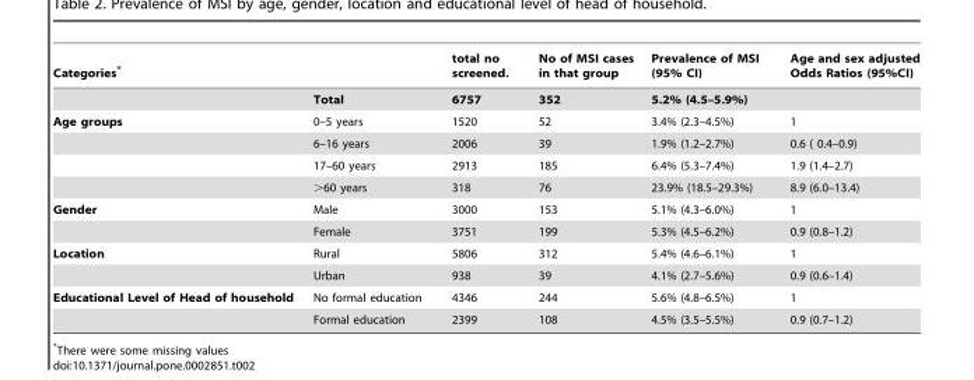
<table><thead><tr><td colspan="2">Categories*</td><td rowspan="2">total no screened. 6757</td><td rowspan="2">No of MSI cases in that group 352</td><td rowspan="2">Prevalence of MSI (95% CI) 5.2% (4.5–5.9%)</td><td rowspan="2">Age and sex adjusted Odds Ratios (95%CI)</td></tr><tr><td></td><td>Total</td></tr></thead><tbody><tr><td rowspan="4">Age groups</td><td>0–5 years</td><td>1520</td><td>52</td><td>3.4% (2.3–4.5%)</td><td>1</td></tr><tr><td>6–16 years</td><td>2006</td><td>39</td><td>1.9% (1.2–2.7%)</td><td>0.6 ( 0.4–0.9)</td></tr><tr><td>17–60 years</td><td>2913</td><td>185</td><td>6.4% (5.3–7.4%)</td><td>1.9 (1.4–2.7)</td></tr><tr><td>&gt;60 years</td><td>318</td><td>76</td><td>23.9% (18.5–29.3%)</td><td>8.9 (6.0–13.4)</td></tr><tr><td rowspan="2">Gender</td><td>Male</td><td>3000</td><td>153</td><td>5.1% (4.3–6.0%)</td><td>1</td></tr><tr><td>Female</td><td>3751</td><td>199</td><td>5.3% (4.5–6.2%)</td><td>0.9 (0.8–1.2)</td></tr><tr><td rowspan="2">Location</td><td>Rural</td><td>5806</td><td>312</td><td>5.4% (4.6–6.1%)</td><td>1</td></tr><tr><td>Urban</td><td>938</td><td>39</td><td>4.1% (2.7–5.6%)</td><td>0.9 (0.6–1.4)</td></tr><tr><td rowspan="2">Educational Level of Head of household</td><td>No formal education</td><td>4346</td><td>244</td><td>5.6% (4.8–6.5%)</td><td>1</td></tr><tr><td>Formal education</td><td>2399</td><td>108</td><td>4.5% (3.5–5.5%)</td><td>0.9 (0.7–1.2)</td></tr></tbody></table>